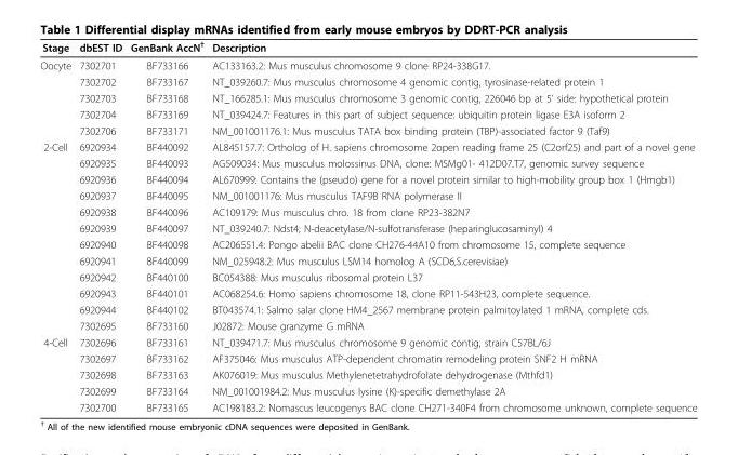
<table><thead><tr><td>Stage</td><td>dbEST ID</td><td>GenBank AccN<sup>†</sup></td><td>Description</td></tr></thead><tbody><tr><td rowspan="5">Oocyte</td><td>7302701</td><td>BF733166</td><td>AC133163.2: Mus musculus chromosome 9 clone RP24-338G17.</td></tr><tr><td>7302702</td><td>BF733167</td><td>NT_039260.7: Mus musculus chromosome 4 genomic contig, tyrosinase-related protein 1</td></tr><tr><td>7302703</td><td>BF733168</td><td>NT_166285.1: Mus musculus chromosome 3 genomic contig, 226046 bp at 5’ side: hypothetical protein</td></tr><tr><td>7302704</td><td>BF733169</td><td>NT_039424.7: Features in this part of subject sequence: ubiquitin protein ligase E3A isoform 2</td></tr><tr><td>7302706</td><td>BF733171</td><td>NM_001001176.1: Mus musculus TATA box binding protein (TBP)-associated factor 9 (Taf9)</td></tr><tr><td rowspan="12">2-Cell</td><td>6920934</td><td>BF440092</td><td>AL845157.7: Ortholog of H. sapiens chromosome 2open reading frame 25 (C2orf25) and part of a novel gene</td></tr><tr><td>6920935</td><td>BF440093</td><td>AG509034: Mus musculus molossinus DNA, clone: MSMg01- 412D07.T7, genomic survey sequence</td></tr><tr><td>6920936</td><td>BF440094</td><td>AL670999: Contains the (pseudo) gene for a novel protein similar to high-mobility group box 1 (Hmgb1)</td></tr><tr><td>6920937</td><td>BF440095</td><td>NM_001001176: Mus musculus TAF9B RNA polymerase II</td></tr><tr><td>6920938</td><td>BF440096</td><td>AC109179: Mus musculus chro. 18 from clone RP23-382N7</td></tr><tr><td>6920939</td><td>BF440097</td><td>NT_039240.7: Ndst4; N-deacetylase/N-sulfotransferase (heparinglucosaminyl) 4</td></tr><tr><td>6920940</td><td>BF440098</td><td>AC206551.4: Pongo abelii BAC clone CH276-44A10 from chromosome 15, complete sequence</td></tr><tr><td>6920941</td><td>BF440099</td><td>NM_025948.2: Mus musculus LSM14 homolog A (SCD6,S.cerevisiae)</td></tr><tr><td>6920942</td><td>BF440100</td><td>BC054388: Mus musculus ribosomal protein L37</td></tr><tr><td>6920943</td><td>BF440101</td><td>AC068254.6: Homo sapiens chromosome 18, clone RP11-543H23, complete sequence.</td></tr><tr><td>6920944</td><td>BF440102</td><td>BT043574.1: Salmo salar clone HM4_2567 membrane protein palmitoylated 1 mRNA, complete cds.</td></tr><tr><td>7302695</td><td>BF733160</td><td>J02872: Mouse granzyme G mRNA</td></tr><tr><td rowspan="5">4-Cell</td><td>7302696</td><td>BF733161</td><td>NT_039471.7: Mus musculus chromosome 9 genomic contig, strain C57BL/6J</td></tr><tr><td>7302697</td><td>BF733162</td><td>AF375046: Mus musculus ATP-dependent chromatin remodeling protein SNF2 H mRNA</td></tr><tr><td>7302698</td><td>BF733163</td><td>AK076019: Mus musculus Methylenetetrahydrofolate dehydrogenase (Mthfd1)</td></tr><tr><td>7302699</td><td>BF733164</td><td>NM_001001984.2: Mus musculus lysine (K)-specific demethylase 2A</td></tr><tr><td>7302700</td><td>BF733165</td><td>AC198183.2: Nomascus leucogenys BAC clone CH271-340F4 from chromosome unknown, complete sequence</td></tr></tbody></table>